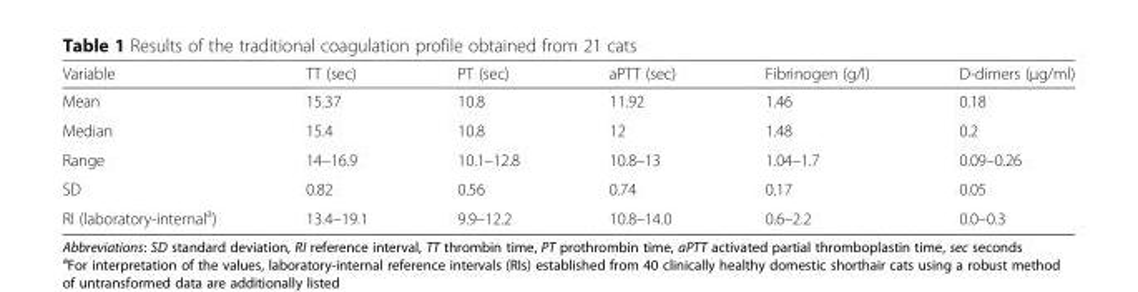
<table><thead><tr><td>Variable</td><td>TT (sec)</td><td>PT (sec)</td><td>aPTT (sec)</td><td>Fibrinogen (g/l)</td><td>D-dimers (μg/ml)</td></tr></thead><tbody><tr><td>Mean</td><td>15.37</td><td>10.8</td><td>11.92</td><td>1.46</td><td>0.18</td></tr><tr><td>Median</td><td>15.4</td><td>10.8</td><td>12</td><td>1.48</td><td>0.2</td></tr><tr><td>Range</td><td>14–16.9</td><td>10.1–12.8</td><td>10.8–13</td><td>1.04–1.7</td><td>0.09–0.26</td></tr><tr><td>SD</td><td>0.82</td><td>0.56</td><td>0.74</td><td>0.17</td><td>0.05</td></tr><tr><td>RI (laboratory-internal<sup>a</sup>)</td><td>13.4–19.1</td><td>9.9–12.2</td><td>10.8–14.0</td><td>0.6–2.2</td><td>0.0–0.3</td></tr></tbody></table>